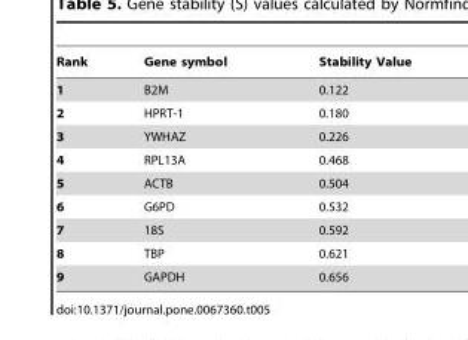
<table><thead><tr><td>Rank</td><td>Gene symbol</td><td>Stability Value</td></tr></thead><tbody><tr><td>1</td><td>B2M</td><td>0.122</td></tr><tr><td>2</td><td>HPRT-1</td><td>0.180</td></tr><tr><td>3</td><td>YWHAZ</td><td>0.226</td></tr><tr><td>4</td><td>RPL13A</td><td>0.468</td></tr><tr><td>5</td><td>ACTB</td><td>0.504</td></tr><tr><td>6</td><td>G6PD</td><td>0.532</td></tr><tr><td>7</td><td>18S</td><td>0.592</td></tr><tr><td>8</td><td>TBP</td><td>0.621</td></tr><tr><td>9</td><td>GAPDH</td><td>0.656</td></tr></tbody></table>